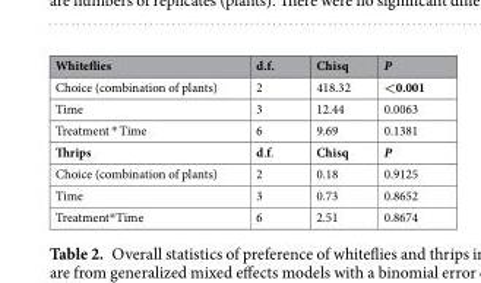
<table><thead><tr><td>Whiteflies</td><td>d.f.</td><td>Chisq</td><td>P</td></tr></thead><tbody><tr><td>Choice (combination of plants)</td><td>2</td><td>418.32</td><td>&lt;0.001</td></tr><tr><td>Time</td><td>3</td><td>12.44</td><td>0.0063</td></tr><tr><td>Treatment * Time</td><td>6</td><td>9.69</td><td>0.1381</td></tr><tr><td>Thrips</td><td>d.f.</td><td>Chisq</td><td>P</td></tr><tr><td>Choice (combination of plants)</td><td>2</td><td>0.18</td><td>0.9125</td></tr><tr><td>Time</td><td>3</td><td>0.73</td><td>0.8652</td></tr><tr><td>Treatment*Time</td><td>6</td><td>2.51</td><td>0.8674</td></tr></tbody></table>